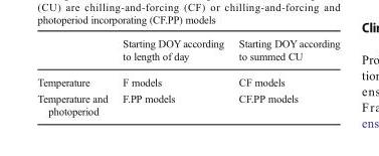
<table><thead><tr><td></td><td>Starting DOY according to length of day</td><td>Starting DOY according to summed CU</td></tr></thead><tbody><tr><td>Temperature</td><td>F models</td><td>CF models</td></tr><tr><td>Temperature and photoperiod</td><td>F.PP models</td><td>CF.PP models</td></tr></tbody></table>